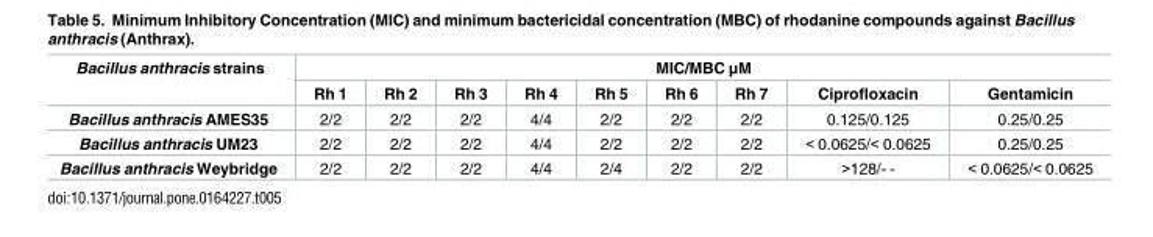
<table><thead><tr><td rowspan="2">Bacillus anthracis strains</td><td colspan="9">MIC/MBC μM</td></tr><tr><td>Rh 1</td><td>Rh 2</td><td>Rh 3</td><td>Rh 4</td><td>Rh 5</td><td>Rh 6</td><td>Rh 7</td><td>Ciprofloxacin</td><td>Gentamicin</td></tr></thead><tbody><tr><td>Bacillus anthracis AMES35</td><td>2/2</td><td>2/2</td><td>2/2</td><td>4/4</td><td>2/2</td><td>2/2</td><td>2/2</td><td>0.125/0.125</td><td>0.25/0.25</td></tr><tr><td>Bacillus anthracis UM23</td><td>2/2</td><td>2/2</td><td>2/2</td><td>4/4</td><td>2/2</td><td>2/2</td><td>2/2</td><td>&lt; 0.0625/&lt; 0.0625</td><td>0.25/0.25</td></tr><tr><td>Bacillus anthracis Weybridge</td><td>2/2</td><td>2/2</td><td>2/2</td><td>4/4</td><td>2/4</td><td>2/2</td><td>2/2</td><td>&gt;128/- -</td><td>&lt; 0.0625/&lt; 0.0625</td></tr></tbody></table>